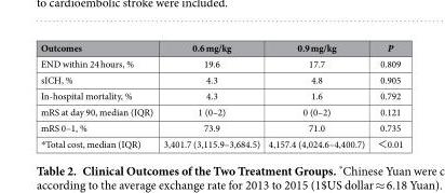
<table><thead><tr><td>Outcomes</td><td>0.6 mg/kg</td><td>0.9 mg/kg</td><td>P</td></tr></thead><tbody><tr><td>END within 24 hours, %</td><td>19.6</td><td>17.7</td><td>0.809</td></tr><tr><td>sICH, %</td><td>4.3</td><td>4.8</td><td>0.905</td></tr><tr><td>In-hospital mortality, %</td><td>4.3</td><td>1.6</td><td>0.792</td></tr><tr><td>mRS at day 90, median (IQR)</td><td>1 (0–2)</td><td>0 (0–2)</td><td>0.121</td></tr><tr><td>mRS 0–1, %</td><td>73.9</td><td>71.0</td><td>0.735</td></tr><tr><td>* Total cost, median (IQR)</td><td>3,401.7 (3,115.9–3,684.5)</td><td>4,157.4 (4,024.6–4,400.7)</td><td>＜ 0.01</td></tr></tbody></table>